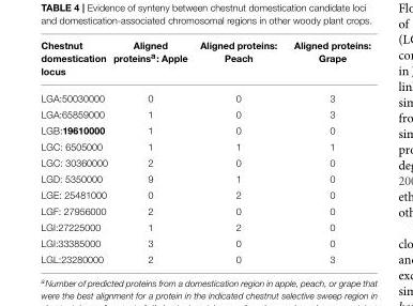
<table><thead><tr><td>Chestnut domestication locus</td><td>Aligned proteins<sup>a</sup>: Apple</td><td>Aligned proteins: Peach</td><td>Aligned proteins: Grape</td></tr></thead><tbody><tr><td>LGA:50030000</td><td>0</td><td>0</td><td>3</td></tr><tr><td>LGA:65859000</td><td>1</td><td>0</td><td>3</td></tr><tr><td>LGB:19610000</td><td>1</td><td>0</td><td>0</td></tr><tr><td>LGC: 6505000</td><td>1</td><td>1</td><td>1</td></tr><tr><td>LGC: 30360000</td><td>2</td><td>0</td><td>0</td></tr><tr><td>LGD: 5350000</td><td>9</td><td>1</td><td>0</td></tr><tr><td>LGE: 25481000</td><td>0</td><td>2</td><td>0</td></tr><tr><td>LGF: 27956000</td><td>2</td><td>0</td><td>0</td></tr><tr><td>LGI:27225000</td><td>1</td><td>2</td><td>0</td></tr><tr><td>LGI:33385000</td><td>3</td><td>0</td><td>0</td></tr><tr><td>LGL:23280000</td><td>2</td><td>0</td><td>3</td></tr></tbody></table>